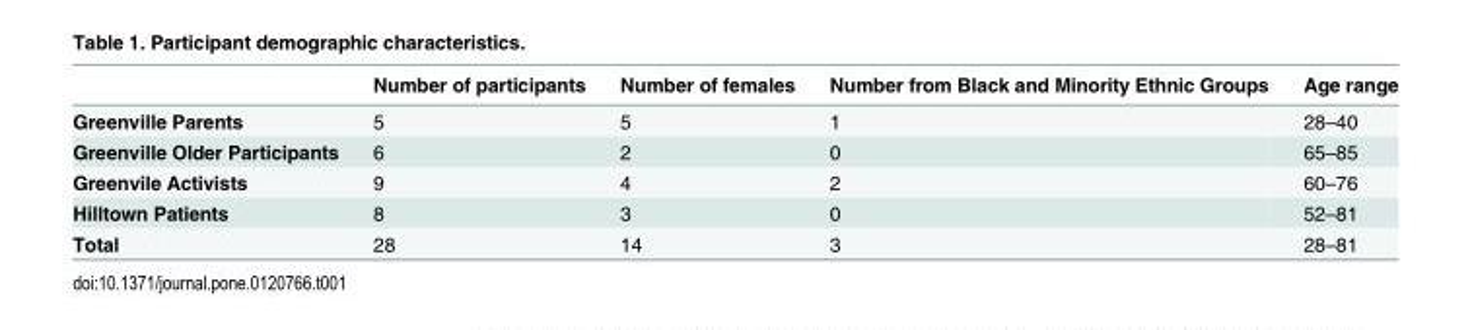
<table><thead><tr><td></td><td>Number of participants</td><td>Number of females</td><td>Number from Black and Minority Ethnic Groups</td><td>Age range</td></tr></thead><tbody><tr><td>Greenville Parents</td><td>5</td><td>5</td><td>1</td><td>28–40</td></tr><tr><td>Greenville Older Participants</td><td>6</td><td>2</td><td>0</td><td>65–85</td></tr><tr><td>Greenvile Activists</td><td>9</td><td>4</td><td>2</td><td>60–76</td></tr><tr><td>Hilltown Patients</td><td>8</td><td>3</td><td>0</td><td>52–81</td></tr><tr><td>Total</td><td>28</td><td>14</td><td>3</td><td>28–81</td></tr></tbody></table>